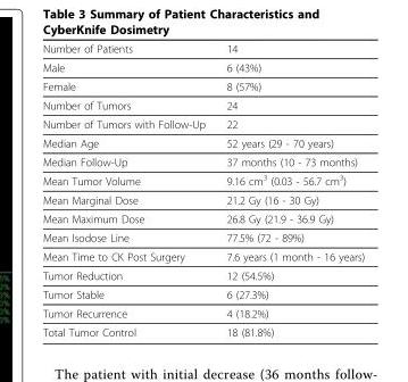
<table><thead><tr><td>Number of Patients</td><td>14</td></tr></thead><tbody><tr><td>Male</td><td>6 (43%)</td></tr><tr><td>Female</td><td>8 (57%)</td></tr><tr><td>Number of Tumors</td><td>24</td></tr><tr><td>Number of Tumors with Follow-Up</td><td>22</td></tr><tr><td>Median Age</td><td>52 years (29 - 70 years)</td></tr><tr><td>Median Follow-Up</td><td>37 months (10 - 73 months)</td></tr><tr><td>Mean Tumor Volume</td><td>9.16 cm<sup>3</sup> (0.03 - 56.7 cm<sup>3</sup>)</td></tr><tr><td>Mean Marginal Dose</td><td>21.2 Gy (16 - 30 Gy)</td></tr><tr><td>Mean Maximum Dose</td><td>26.8 Gy (21.9 - 36.9 Gy)</td></tr><tr><td>Mean Isodose Line</td><td>77.5% (72 - 89%)</td></tr><tr><td>Mean Time to CK Post Surgery</td><td>7.6 years (1 month - 16 years)</td></tr><tr><td>Tumor Reduction</td><td>12 (54.5%)</td></tr><tr><td>Tumor Stable</td><td>6 (27.3%)</td></tr><tr><td>Tumor Recurrence</td><td>4 (18.2%)</td></tr><tr><td>Total Tumor Control</td><td>18 (81.8%)</td></tr></tbody></table>